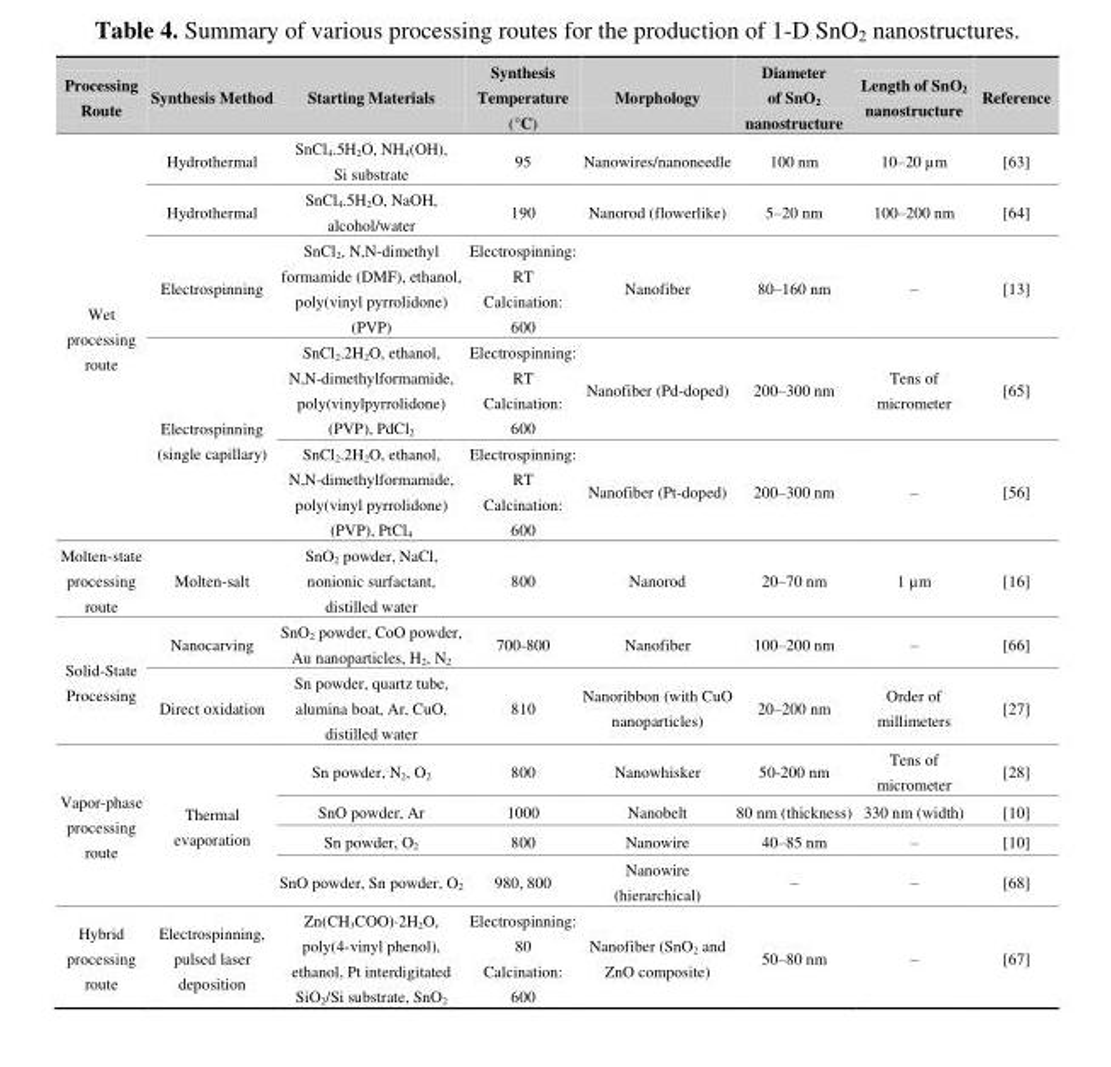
<table><thead><tr><td>Processing Route</td><td>Synthesis Method</td><td>Starting Materials</td><td>Synthesis Temperature (°C)</td><td>Morphology</td><td>Diameter of SnO<sub>2</sub> nanostructure</td><td>Length of SnO<sub>2</sub> nanostructure</td><td>Reference</td></tr></thead><tbody><tr><td rowspan="5">Wet processing route</td><td>Hydrothermal</td><td>SnCl<sub>4</sub>.5H<sub>2</sub>O, NH<sub>4</sub>(OH), Si substrate</td><td>95</td><td>Nanowires/nanoneedle</td><td>100 nm</td><td>10–20 µm</td><td>[63]</td></tr><tr><td>Hydrothermal</td><td>SnCl<sub>4</sub>.5H<sub>2</sub>O, NaOH, alcohol/water</td><td>190</td><td>Nanorod (flowerlike)</td><td>5–20 nm</td><td>100–200 nm</td><td>[64]</td></tr><tr><td>Electrospinning</td><td>SnCl<sub>2</sub>, N,N-dimethyl formamide (DMF), ethanol, poly(vinyl pyrrolidone) (PVP)</td><td>Electrospinning: RT Calcination: 600</td><td>Nanofiber</td><td>80–160 nm</td><td>–</td><td>[13]</td></tr><tr><td rowspan="2">Electrospinning (single capillary)</td><td>SnCl<sub>2</sub>.2H<sub>2</sub>O, ethanol, N,N-dimethylformamide, poly(vinylpyrrolidone) (PVP), PdCl<sub>2</sub></td><td>Electrospinning: RT Calcination: 600</td><td>Nanofiber (Pd-doped)</td><td>200–300 nm</td><td>Tens of micrometer</td><td>[65]</td></tr><tr><td>SnCl<sub>2</sub>.2H<sub>2</sub>O, ethanol, N,N-dimethylformamide, poly(vinyl pyrrolidone) (PVP), PtCl<sub>4</sub></td><td>Electrospinning: RT Calcination: 600</td><td>Nanofiber (Pt-doped)</td><td>200–300 nm</td><td>–</td><td>[56]</td></tr><tr><td>Molten-state processing route</td><td>Molten-salt</td><td>SnO<sub>2</sub> powder, NaCl, nonionic surfactant, distilled water</td><td>800</td><td>Nanorod</td><td>20–70 nm</td><td>1 µm</td><td>[16]</td></tr><tr><td rowspan="2">Solid-State Processing</td><td>Nanocarving</td><td>SnO<sub>2</sub> powder, CoO powder, Au nanoparticles, H<sub>2</sub>, N<sub>2</sub></td><td>700-800</td><td>Nanofiber</td><td>100–200 nm</td><td>–</td><td>[66]</td></tr><tr><td>Direct oxidation</td><td>Sn powder, quartz tube, alumina boat, Ar, CuO, distilled water</td><td>810</td><td>Nanoribbon (with CuO nanoparticles)</td><td>20–200 nm</td><td>Order of millimeters</td><td>[27]</td></tr><tr><td rowspan="4">Vapor-phase processing route</td><td rowspan="4">Thermal evaporation</td><td>Sn powder, N<sub>2</sub>, O<sub>2</sub></td><td>800</td><td>Nanowhisker</td><td>50-200 nm</td><td>Tens of micrometer</td><td>[28]</td></tr><tr><td>SnO powder, Ar</td><td>1000</td><td>Nanobelt</td><td>80 nm (thickness)</td><td>330 nm (width)</td><td>[10]</td></tr><tr><td>Sn powder, O<sub>2</sub></td><td>800</td><td>Nanowire</td><td>40–85 nm</td><td>–</td><td>[10]</td></tr><tr><td>SnO powder, Sn powder, O<sub>2</sub></td><td>980, 800</td><td>Nanowire (hierarchical)</td><td>–</td><td>–</td><td>[68]</td></tr><tr><td>Hybrid processing route</td><td>Electrospinning, pulsed laser deposition</td><td>Zn(CH<sub>3</sub>COO)·2H<sub>2</sub>O, poly(4-vinyl phenol), ethanol, Pt interdigitated SiO<sub>2</sub>/Si substrate, SnO<sub>2</sub></td><td>Electrospinning: 80 Calcination: 600</td><td>Nanofiber (SnO<sub>2</sub> and ZnO composite)</td><td>50–80 nm</td><td>–</td><td>[67]</td></tr></tbody></table>